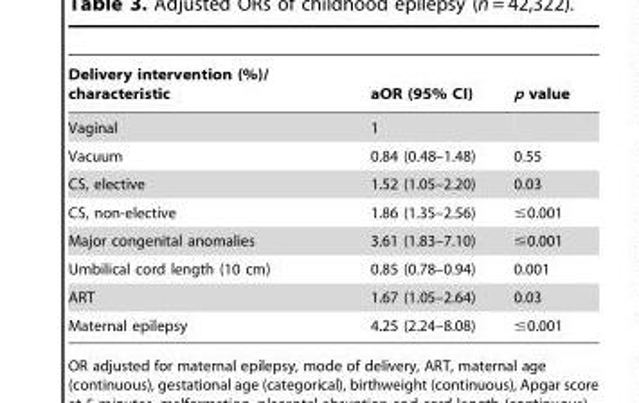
<table><thead><tr><td>Delivery intervention (%)/ characteristic</td><td>aOR (95% CI)</td><td>p value</td></tr></thead><tbody><tr><td>Vaginal</td><td>1</td><td></td></tr><tr><td>Vacuum</td><td>0.84 (0.48–1.48)</td><td>0.55</td></tr><tr><td>CS, elective</td><td>1.52 (1.05–2.20)</td><td>0.03</td></tr><tr><td>CS, non-elective</td><td>1.86 (1.35–2.56)</td><td>≤0.001</td></tr><tr><td>Major congenital anomalies</td><td>3.61 (1.83–7.10)</td><td>≤0.001</td></tr><tr><td>Umbilical cord length (10 cm)</td><td>0.85 (0.78–0.94)</td><td>0.001</td></tr><tr><td>ART</td><td>1.67 (1.05–2.64)</td><td>0.03</td></tr><tr><td>Maternal epilepsy</td><td>4.25 (2.24–8.08)</td><td>≤0.001</td></tr></tbody></table>